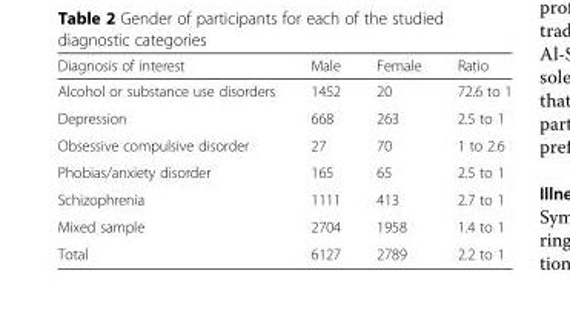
<table><thead><tr><td>Diagnosis of interest</td><td>Male</td><td>Female</td><td>Ratio</td></tr></thead><tbody><tr><td>Alcohol or substance use disorders</td><td>1452</td><td>20</td><td>72.6 to 1</td></tr><tr><td>Depression</td><td>668</td><td>263</td><td>2.5 to 1</td></tr><tr><td>Obsessive compulsive disorder</td><td>27</td><td>70</td><td>1 to 2.6</td></tr><tr><td>Phobias/anxiety disorder</td><td>165</td><td>65</td><td>2.5 to 1</td></tr><tr><td>Schizophrenia</td><td>1111</td><td>413</td><td>2.7 to 1</td></tr><tr><td>Mixed sample</td><td>2704</td><td>1958</td><td>1.4 to 1</td></tr><tr><td>Total</td><td>6127</td><td>2789</td><td>2.2 to 1</td></tr></tbody></table>